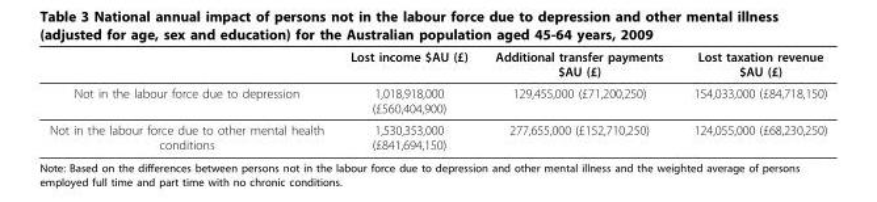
<table><thead><tr><td></td><td>Lost income $AU (£)</td><td>Additional transfer payments $AU (£)</td><td>Lost taxation revenue $AU (£)</td></tr></thead><tbody><tr><td>Not in the labour force due to depression</td><td>1,018,918,000 (£560,404,900)</td><td>129,455,000 (£71,200,250)</td><td>154,033,000 (£84,718,150)</td></tr><tr><td>Not in the labour force due to other mental health conditions</td><td>1,530,353,000 (£841,694,150)</td><td>277,655,000 (£152,710,250)</td><td>124,055,000 (£68,230,250)</td></tr></tbody></table>